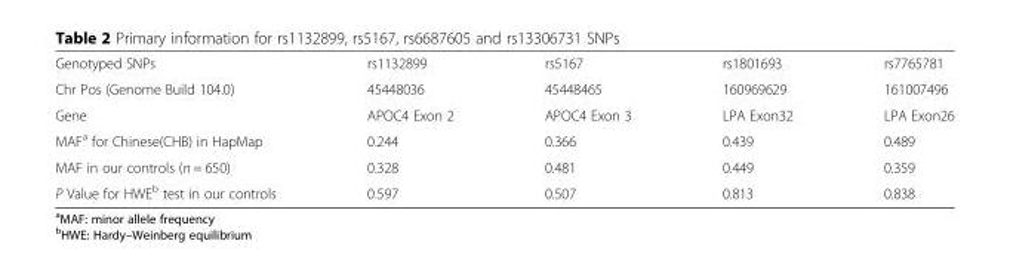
<table><tbody><tr><td>Genotyped SNPs</td><td>rs1132899</td><td>rs5167</td><td>rs1801693</td><td>rs7765781</td></tr><tr><td>Chr Pos (Genome Build 104.0)</td><td>45448036</td><td>45448465</td><td>160969629</td><td>161007496</td></tr><tr><td>Gene</td><td>APOC4 Exon 2</td><td>APOC4 Exon 3</td><td>LPA Exon32</td><td>LPA Exon26</td></tr><tr><td>MAF<sup>a</sup> for Chinese(CHB) in HapMap</td><td>0.244</td><td>0.366</td><td>0.439</td><td>0.489</td></tr><tr><td>MAF in our controls (n = 650)</td><td>0.328</td><td>0.481</td><td>0.449</td><td>0.359</td></tr><tr><td>P Value for HWE<sup>b</sup> test in our controls</td><td>0.597</td><td>0.507</td><td>0.813</td><td>0.838</td></tr></tbody></table>